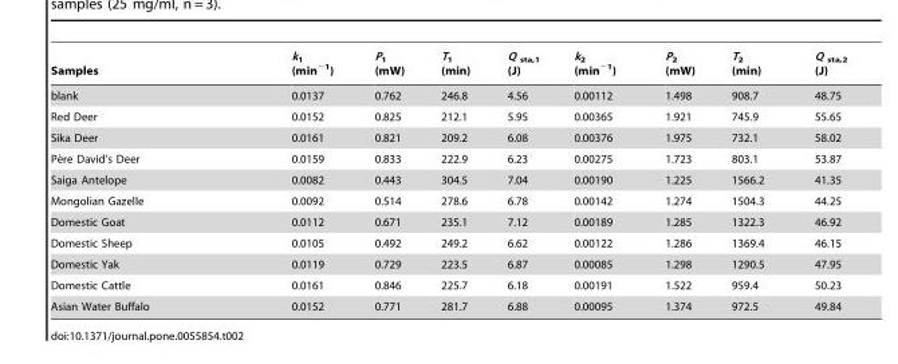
<table><thead><tr><td>Samples</td><td>k<sub>1</sub> (min<sup>−1</sup>)</td><td>P<sub>1</sub> (mW)</td><td>T<sub>1</sub> (min)</td><td>Q <sub>sta,1</sub> (J)</td><td>k<sub>2</sub> (min<sup>−1</sup>)</td><td>P<sub>2</sub> (mW)</td><td>T<sub>2</sub> (min)</td><td>Q <sub>sta,2</sub> (J)</td></tr></thead><tbody><tr><td>blank</td><td>0.0137</td><td>0.762</td><td>246.8</td><td>4.56</td><td>0.00112</td><td>1.498</td><td>908.7</td><td>48.75</td></tr><tr><td>Red Deer</td><td>0.0152</td><td>0.825</td><td>212.1</td><td>5.95</td><td>0.00365</td><td>1.921</td><td>745.9</td><td>55.65</td></tr><tr><td>Sika Deer</td><td>0.0161</td><td>0.821</td><td>209.2</td><td>6.08</td><td>0.00376</td><td>1.975</td><td>732.1</td><td>58.02</td></tr><tr><td>Pe`re David’s Deer</td><td>0.0159</td><td>0.833</td><td>222.9</td><td>6.23</td><td>0.00275</td><td>1.723</td><td>803.1</td><td>53.87</td></tr><tr><td>Saiga Antelope</td><td>0.0082</td><td>0.443</td><td>304.5</td><td>7.04</td><td>0.00190</td><td>1.225</td><td>1566.2</td><td>41.35</td></tr><tr><td>Mongolian Gazelle</td><td>0.0092</td><td>0.514</td><td>278.6</td><td>6.78</td><td>0.00142</td><td>1.274</td><td>1504.3</td><td>44.25</td></tr><tr><td>Domestic Goat</td><td>0.0112</td><td>0.671</td><td>235.1</td><td>7.12</td><td>0.00189</td><td>1.285</td><td>1322.3</td><td>46.92</td></tr><tr><td>Domestic Sheep</td><td>0.0105</td><td>0.492</td><td>249.2</td><td>6.62</td><td>0.00122</td><td>1.286</td><td>1369.4</td><td>46.15</td></tr><tr><td>Domestic Yak</td><td>0.0119</td><td>0.729</td><td>223.5</td><td>6.87</td><td>0.00085</td><td>1.298</td><td>1290.5</td><td>47.95</td></tr><tr><td>Domestic Cattle</td><td>0.0161</td><td>0.846</td><td>225.7</td><td>6.18</td><td>0.00191</td><td>1.522</td><td>959.4</td><td>50.23</td></tr><tr><td>Asian Water Buffalo</td><td>0.0152</td><td>0.771</td><td>281.7</td><td>6.88</td><td>0.00095</td><td>1.374</td><td>972.5</td><td>49.84</td></tr></tbody></table>